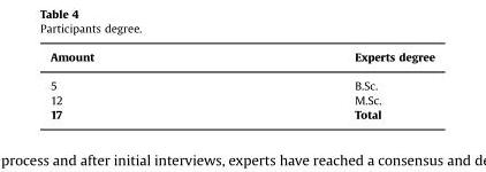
<table><thead><tr><td>Amount</td><td>Experts degree</td></tr></thead><tbody><tr><td>5</td><td>B.Sc.</td></tr><tr><td>12</td><td>M.Sc.</td></tr><tr><td>17</td><td>Total</td></tr></tbody></table>